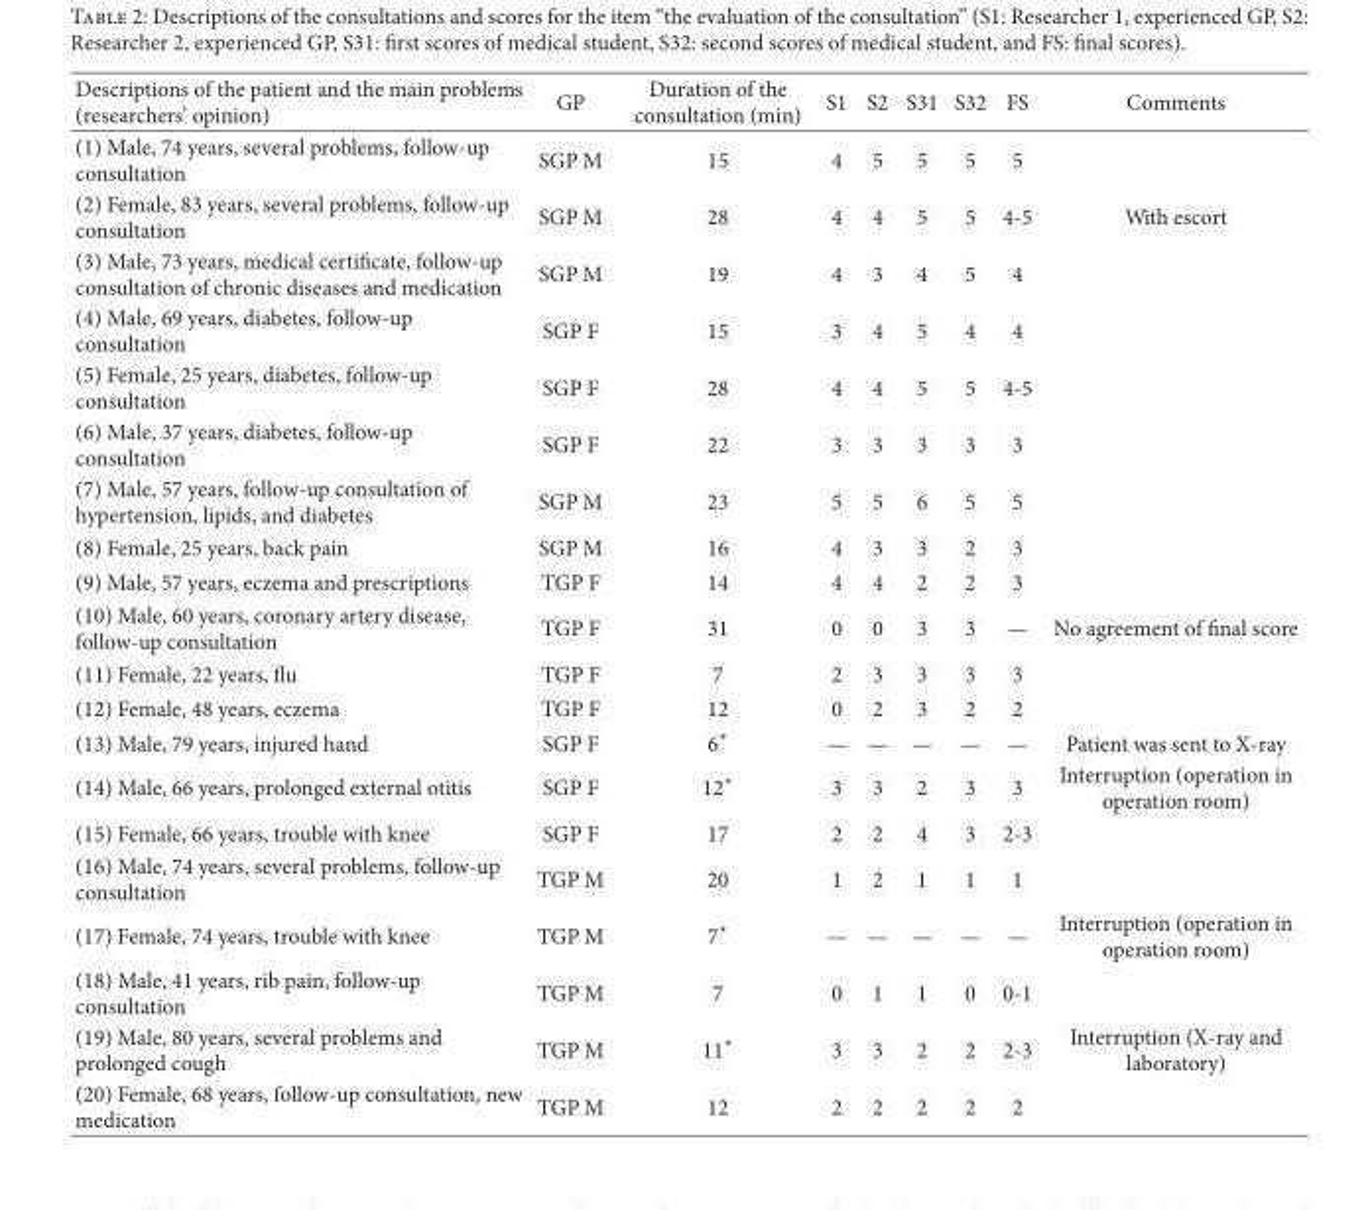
<table><thead><tr><td>Descriptions of the patient and the main problems (researchers’ opinion)</td><td>GP</td><td>Duration of the consultation (min)</td><td>S1</td><td>S2</td><td>S31</td><td>S32</td><td>FS</td><td>Comments</td></tr></thead><tbody><tr><td>(1) Male, 74 years, several problems, follow-up consultation</td><td>SGP M</td><td>15</td><td>4</td><td>5</td><td>5</td><td>5</td><td>5</td><td></td></tr><tr><td>(2) Female, 83 years, several problems, follow-up consultation</td><td>SGP M</td><td>28</td><td>4</td><td>4</td><td>5</td><td>5</td><td>4-5</td><td>With escort</td></tr><tr><td>(3) Male, 73 years, medical certi�cate, follow-up consultation of chronic diseases and medication</td><td>SGP M</td><td>19</td><td>4</td><td>3</td><td>4</td><td>5</td><td>4</td><td></td></tr><tr><td>(4) Male, 69 years, diabetes, follow-up consultation</td><td>SGP F</td><td>15</td><td>3</td><td>4</td><td>5</td><td>4</td><td>4</td><td></td></tr><tr><td>(5) Female, 25 years, diabetes, follow-up consultation</td><td>SGP F</td><td>28</td><td>4</td><td>4</td><td>5</td><td>5</td><td>4-5</td><td></td></tr><tr><td>(6) Male, 37 years, diabetes, follow-up consultation</td><td>SGP F</td><td>22</td><td>3</td><td>3</td><td>3</td><td>3</td><td>3</td><td></td></tr><tr><td>(7) Male, 57 years, follow-up consultation of hypertension, lipids, and diabetes</td><td>SGP M</td><td>23</td><td>5</td><td>5</td><td>6</td><td>5</td><td>5</td><td></td></tr><tr><td>(8) Female, 25 years, back pain</td><td>SGP M</td><td>16</td><td>4</td><td>3</td><td>3</td><td>2</td><td>3</td><td></td></tr><tr><td>(9) Male, 57 years, eczema and prescriptions</td><td>TGP F</td><td>14</td><td>4</td><td>4</td><td>2</td><td>2</td><td>3</td><td></td></tr><tr><td>(10) Male, 60 years, coronary artery disease, follow-up consultation</td><td>TGP F</td><td>31</td><td>0</td><td>0</td><td>3</td><td>3</td><td>—</td><td>�o agreement of �nal score</td></tr><tr><td>(11) Female, 22 years, �u</td><td>TGP F</td><td>7</td><td>2</td><td>3</td><td>3</td><td>3</td><td>3</td><td></td></tr><tr><td>(12) Female, 48 years, eczema</td><td>TGP F</td><td>12</td><td>0</td><td>2</td><td>3</td><td>2</td><td>2</td><td></td></tr><tr><td>(13) Male, 79 years, injured hand</td><td>SGP F</td><td>6∗</td><td>—</td><td>—</td><td>—</td><td>—</td><td>—</td><td>Patient was sent to X-ray</td></tr><tr><td>(14) Male, 66 years, prolonged external otitis</td><td>SGP F</td><td>12∗</td><td>3</td><td>3</td><td>2</td><td>3</td><td>3</td><td>Interruption (operation in operation room)</td></tr><tr><td>(15) Female, 66 years, trouble with knee</td><td>SGP F</td><td>17</td><td>2</td><td>2</td><td>4</td><td>3</td><td>2-3</td><td></td></tr><tr><td>(16) Male, 74 years, several problems, follow-up consultation</td><td>TGP M</td><td>20</td><td>1</td><td>2</td><td>1</td><td>1</td><td>1</td><td></td></tr><tr><td>(17) Female, 74 years, trouble with knee</td><td>TGP M</td><td>7∗</td><td>—</td><td>—</td><td>—</td><td>—</td><td>—</td><td>Interruption (operation in operation room)</td></tr><tr><td>(18) Male, 41 years, rib pain, follow-up consultation</td><td>TGP M</td><td>7</td><td>0</td><td>1</td><td>1</td><td>0</td><td>0-1</td><td></td></tr><tr><td>(19) Male, 80 years, several problems and prolonged cough</td><td>TGP M</td><td>11∗</td><td>3</td><td>3</td><td>2</td><td>2</td><td>2-3</td><td>Interruption (X-ray and laboratory)</td></tr><tr><td>(20) Female, 68 years, follow-up consultation, new medication</td><td>TGP M</td><td>12</td><td>2</td><td>2</td><td>2</td><td>2</td><td>2</td><td></td></tr></tbody></table>